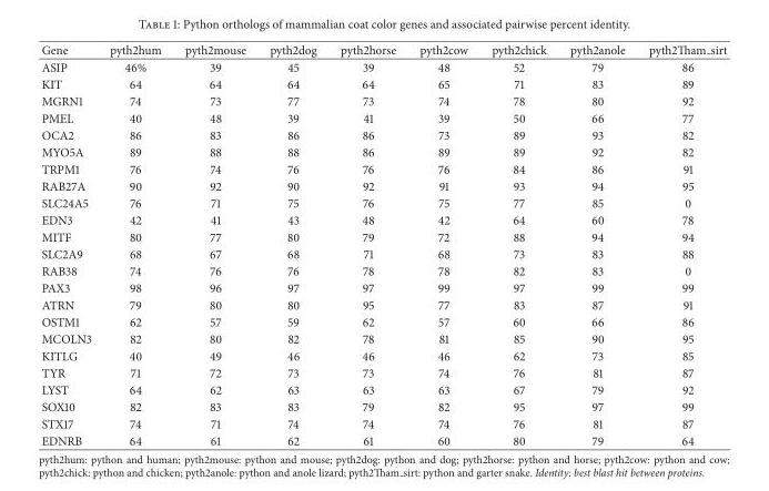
<table><thead><tr><td>Gene</td><td>pyth2hum</td><td>pyth2mouse</td><td>pyth2dog</td><td>pyth2horse</td><td>pyth2cow</td><td>pyth2chick</td><td>pyth2anole</td><td>pyth2Tham sirt</td></tr></thead><tbody><tr><td>ASIP</td><td>46%</td><td>39</td><td>45</td><td>39</td><td>48</td><td>52</td><td>79</td><td>86</td></tr><tr><td>KIT</td><td>64</td><td>64</td><td>64</td><td>64</td><td>65</td><td>71</td><td>83</td><td>89</td></tr><tr><td>MGRN1</td><td>74</td><td>73</td><td>77</td><td>73</td><td>74</td><td>78</td><td>80</td><td>92</td></tr><tr><td>PMEL</td><td>40</td><td>48</td><td>39</td><td>41</td><td>39</td><td>50</td><td>66</td><td>77</td></tr><tr><td>OCA2</td><td>86</td><td>83</td><td>86</td><td>86</td><td>73</td><td>89</td><td>93</td><td>82</td></tr><tr><td>MYO5A</td><td>89</td><td>88</td><td>88</td><td>86</td><td>89</td><td>89</td><td>92</td><td>82</td></tr><tr><td>TRPM1</td><td>76</td><td>74</td><td>76</td><td>76</td><td>76</td><td>84</td><td>86</td><td>91</td></tr><tr><td>RAB27A</td><td>90</td><td>92</td><td>90</td><td>92</td><td>91</td><td>93</td><td>94</td><td>95</td></tr><tr><td>SLC24A5</td><td>76</td><td>71</td><td>75</td><td>76</td><td>75</td><td>77</td><td>85</td><td>0</td></tr><tr><td>EDN3</td><td>42</td><td>41</td><td>43</td><td>48</td><td>42</td><td>64</td><td>60</td><td>78</td></tr><tr><td>MITF</td><td>80</td><td>77</td><td>80</td><td>79</td><td>72</td><td>88</td><td>94</td><td>94</td></tr><tr><td>SLC2A9</td><td>68</td><td>67</td><td>68</td><td>71</td><td>68</td><td>73</td><td>83</td><td>88</td></tr><tr><td>RAB38</td><td>74</td><td>76</td><td>76</td><td>78</td><td>78</td><td>82</td><td>83</td><td>0</td></tr><tr><td>PAX3</td><td>98</td><td>96</td><td>97</td><td>97</td><td>99</td><td>97</td><td>99</td><td>99</td></tr><tr><td>ATRN</td><td>79</td><td>80</td><td>80</td><td>95</td><td>77</td><td>83</td><td>87</td><td>91</td></tr><tr><td>OSTM1</td><td>62</td><td>57</td><td>59</td><td>62</td><td>57</td><td>60</td><td>66</td><td>86</td></tr><tr><td>MCOLN3</td><td>82</td><td>80</td><td>82</td><td>78</td><td>81</td><td>85</td><td>90</td><td>95</td></tr><tr><td>KITLG</td><td>40</td><td>49</td><td>46</td><td>46</td><td>46</td><td>62</td><td>73</td><td>85</td></tr><tr><td>TYR</td><td>71</td><td>72</td><td>73</td><td>73</td><td>74</td><td>76</td><td>81</td><td>87</td></tr><tr><td>LYST</td><td>64</td><td>62</td><td>63</td><td>63</td><td>63</td><td>67</td><td>79</td><td>92</td></tr><tr><td>SOX10</td><td>82</td><td>83</td><td>83</td><td>79</td><td>82</td><td>95</td><td>97</td><td>99</td></tr><tr><td>STX17</td><td>74</td><td>71</td><td>74</td><td>74</td><td>74</td><td>76</td><td>81</td><td>87</td></tr><tr><td>EDNRB</td><td>64</td><td>61</td><td>62</td><td>61</td><td>60</td><td>80</td><td>79</td><td>64</td></tr></tbody></table>